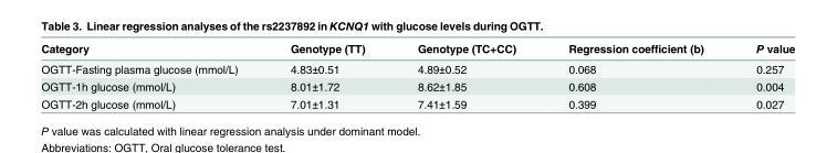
<table><thead><tr><td>Category</td><td>Genotype (TT)</td><td>Genotype (TC+CC)</td><td>Regression coefficient (b)</td><td>P value</td></tr></thead><tbody><tr><td>OGTT-Fasting plasma glucose (mmol/L)</td><td>4.83±0.51</td><td>4.89±0.52</td><td>0.068</td><td>0.257</td></tr><tr><td>OGTT-1h glucose (mmol/L)</td><td>8.01±1.72</td><td>8.62±1.85</td><td>0.608</td><td>0.004</td></tr><tr><td>OGTT-2h glucose (mmol/L)</td><td>7.01±1.31</td><td>7.41±1.59</td><td>0.399</td><td>0.027</td></tr></tbody></table>